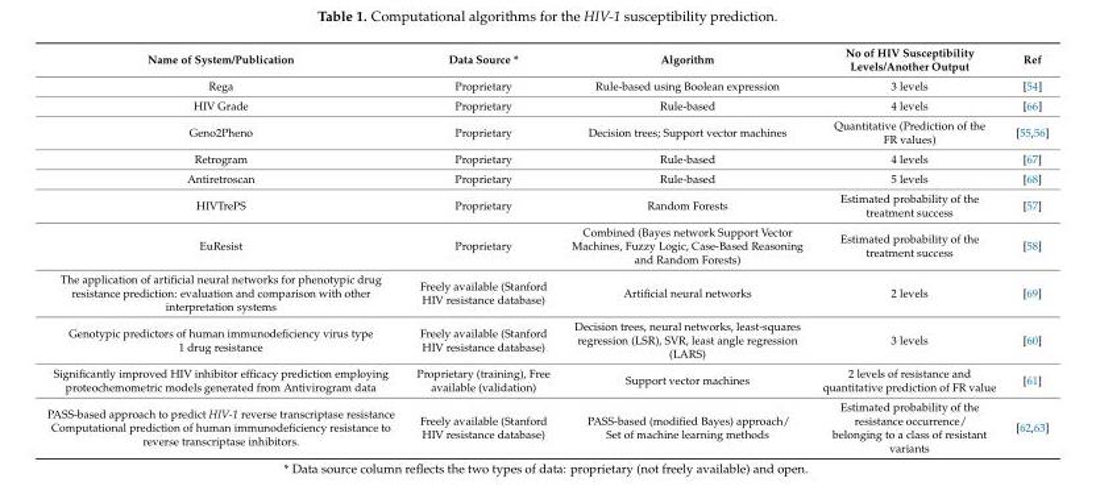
<table><thead><tr><td>Name of System/Publication</td><td>Data Source *</td><td>Algorithm</td><td>No of HIV Susceptibility Levels/Another Output</td><td>Ref</td></tr></thead><tbody><tr><td>Rega</td><td>Proprietary</td><td>Rule-based using Boolean expression</td><td>3 levels</td><td>[54]</td></tr><tr><td>HIV Grade</td><td>Proprietary</td><td>Rule-based</td><td>4 levels</td><td>[66]</td></tr><tr><td>Geno2Pheno</td><td>Proprietary</td><td>Decision trees; Support vector machines</td><td>Quantitative (Prediction of the FR values)</td><td>[55,56]</td></tr><tr><td>Retrogram</td><td>Proprietary</td><td>Rule-based</td><td>4 levels</td><td>[67]</td></tr><tr><td>Antiretroscan</td><td>Proprietary</td><td>Rule-based</td><td>5 levels</td><td>[68]</td></tr><tr><td>HIVTrePS</td><td>Proprietary</td><td>Random Forests</td><td>Estimated probability of the treatment success</td><td>[57]</td></tr><tr><td>EuResist</td><td>Proprietary</td><td>Combined (Bayes network Support Vector Machines, Fuzzy Logic, Case-Based Reasoning and Random Forests)</td><td>Estimated probability of the treatment success</td><td>[58]</td></tr><tr><td>The application of artificial neural networks for phenotypic drug resistance prediction: evaluation and comparison with other interpretation systems</td><td>Freely available (Stanford HIV resistance database)</td><td>Artificial neural networks</td><td>2 levels</td><td>[69]</td></tr><tr><td>Genotypic predictors of human immunodeficiency virus type 1 drug resistance</td><td>Freely available (Stanford HIV resistance database)</td><td>Decision trees, neural networks, least-squares regression (LSR), SVR, least angle regression (LARS)</td><td>3 levels</td><td>[60]</td></tr><tr><td>Significantly improved HIV inhibitor efficacy prediction employing proteochemometric models generated from Antivirogram data</td><td>Proprietary (training), Free available (validation)</td><td>Support vector machines</td><td>2 levels of resistance and quantitative prediction of FR value</td><td>[61]</td></tr><tr><td>PASS-based approach to predict HIV-1 reverse transcriptase resistance Computational prediction of human immunodeficiency resistance to reverse transcriptase inhibitors.</td><td>Freely available (Stanford HIV resistance database)</td><td>PASS-based (modified Bayes) approach/ Set of machine learning methods</td><td>Estimated probability of the resistance occurrence/ belonging to a class of resistant variants</td><td>[62,63]</td></tr></tbody></table>